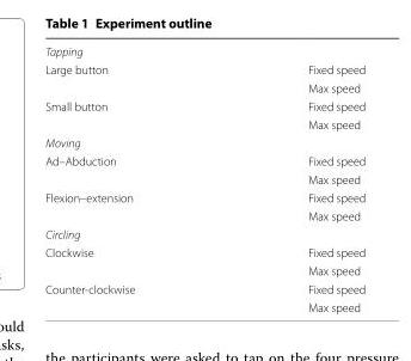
<table><tbody><tr><td colspan="2">Tapping</td></tr><tr><td rowspan="2">Large button</td><td>Fixed speed</td></tr><tr><td>Max speed</td></tr><tr><td rowspan="2">Small button</td><td>Fixed speed</td></tr><tr><td>Max speed</td></tr><tr><td colspan="2">Moving</td></tr><tr><td rowspan="2">Ad–Abduction</td><td>Fixed speed</td></tr><tr><td>Max speed</td></tr><tr><td rowspan="2">Flexion–extension</td><td>Fixed speed</td></tr><tr><td>Max speed</td></tr><tr><td colspan="2">Circling</td></tr><tr><td rowspan="2">Clockwise</td><td>Fixed speed</td></tr><tr><td>Max speed</td></tr><tr><td rowspan="2">Counter-clockwise</td><td>Fixed speed</td></tr><tr><td>Max speed</td></tr></tbody></table>